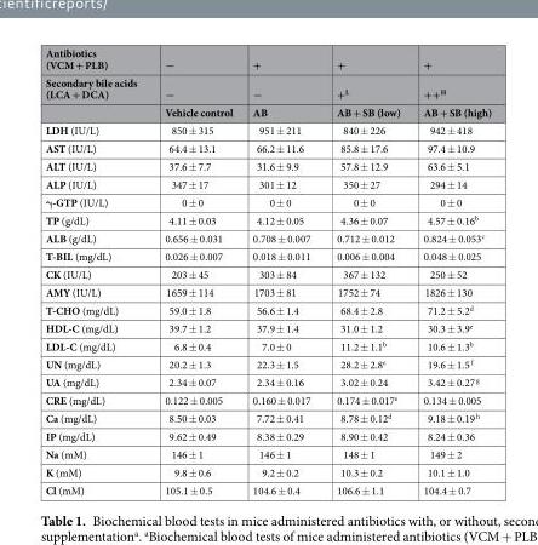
<table><thead><tr><td rowspan="3">Antibiotics (VCM + PLB) Secondary bile acids (LCA + DCA)</td><td rowspan="3">− − Vehicle control</td><td rowspan="3">+ − AB</td><td rowspan="3">+ +<sup>L</sup> AB + SB (low)</td><td rowspan="3">+ ++<sup>H</sup> AB + SB (high)</td></tr><tr></tr><tr></tr></thead><tbody><tr><td>LDH (IU/L)</td><td>850 ± 315</td><td>951 ± 211</td><td>840 ± 226</td><td>942 ± 418</td></tr><tr><td>AST (IU/L)</td><td>64.4 ± 13.1</td><td>66.2 ± 11.6</td><td>85.8 ± 17.6</td><td>97.4 ± 10.9</td></tr><tr><td>ALT (IU/L)</td><td>37.6 ± 7.7</td><td>31.6 ± 9.9</td><td>57.8 ± 12.9</td><td>63.6 ± 5.1</td></tr><tr><td>ALP (IU/L)</td><td>347 ± 17</td><td>301 ± 12</td><td>350 ± 27</td><td>294 ± 14</td></tr><tr><td>γ-GTP (IU/L)</td><td>0 ± 0</td><td>0 ± 0</td><td>0 ± 0</td><td>0 ± 0</td></tr><tr><td>TP (g/dL)</td><td>4.11 ± 0.03</td><td>4.12 ± 0.05</td><td>4.36 ± 0.07</td><td>4.57 ± 0.16<sup>b</sup></td></tr><tr><td>ALB (g/dL)</td><td>0.656 ± 0.031</td><td>0.708 ± 0.007</td><td>0.712 ± 0.012</td><td>0.824 ± 0.053<sup>c</sup></td></tr><tr><td>T-BIL (mg/dL)</td><td>0.026 ± 0.007</td><td>0.018 ± 0.011</td><td>0.006 ± 0.004</td><td>0.048 ± 0.025</td></tr><tr><td>CK (IU/L)</td><td>203 ± 45</td><td>303 ± 84</td><td>367 ± 132</td><td>250 ± 52</td></tr><tr><td>AMY (IU/L)</td><td>1659 ± 114</td><td>1703 ± 81</td><td>1752 ± 74</td><td>1826 ± 130</td></tr><tr><td>T-CHO (mg/dL)</td><td>59.0 ± 1.8</td><td>56.6 ± 1.4</td><td>68.4 ± 2.8</td><td>71.2 ± 5.2<sup>d</sup></td></tr><tr><td>HDL-C (mg/dL)</td><td>39.7 ± 1.2</td><td>37.9 ± 1.4</td><td>31.0 ± 1.2</td><td>30.3 ± 3.9<sup>e</sup></td></tr><tr><td>LDL-C (mg/dL)</td><td>6.8 ± 0.4</td><td>7.0 ± 0</td><td>11.2 ± 1.1<sup>b</sup></td><td>10.6 ± 1.3<sup>b</sup></td></tr><tr><td>UN (mg/dL)</td><td>20.2 ± 1.3</td><td>22.3 ± 1.5</td><td>28.2 ± 2.8<sup>e</sup></td><td>19.6 ± 1.5 <sup>f</sup></td></tr><tr><td>UA (mg/dL)</td><td>2.34 ± 0.07</td><td>2.34 ± 0.16</td><td>3.02 ± 0.24</td><td>3.42 ± 0.27 <sup>g</sup></td></tr><tr><td>CRE (mg/dL)</td><td>0.122 ± 0.005</td><td>0.160 ± 0.017</td><td>0.174 ± 0.017<sup>e</sup></td><td>0.134 ± 0.005</td></tr><tr><td>Ca (mg/dL)</td><td>8.50 ± 0.03</td><td>7.72 ± 0.41</td><td>8.78 ± 0.12<sup>d</sup></td><td>9.18 ± 0.19 <sup>h</sup></td></tr><tr><td>IP (mg/dL)</td><td>9.62 ± 0.49</td><td>8.38 ± 0.29</td><td>8.90 ± 0.42</td><td>8.24 ± 0.36</td></tr><tr><td>Na (mM)</td><td>146 ± 1</td><td>146 ± 1</td><td>148 ± 1</td><td>149 ± 2</td></tr><tr><td>K (mM)</td><td>9.8 ± 0.6</td><td>9.2 ± 0.2</td><td>10.3 ± 0.2</td><td>10.1 ± 1.0</td></tr><tr><td>Cl (mM)</td><td>105.1 ± 0.5</td><td>104.6 ± 0.4</td><td>106.6 ± 1.1</td><td>104.4 ± 0.7</td></tr></tbody></table>